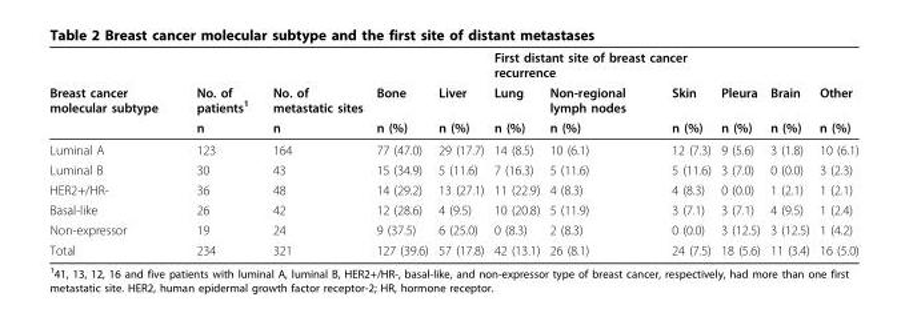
<table><thead><tr><td rowspan="3">Breast cancer molecular subtype</td><td rowspan="3">No. of patients<sup>1</sup> n</td><td rowspan="3">No. of metastatic sites n</td><td rowspan="3">Bone n (%)</td><td rowspan="3">Liver n (%)</td><td colspan="3">First distant site of breast cancer recurrence</td><td rowspan="3">Pleura n (%)</td><td rowspan="3">Brain n (%)</td><td rowspan="3">Other n (%)</td></tr><tr><td rowspan="2">Lung n (%)</td><td rowspan="2">Non-regional lymph nodes n (%)</td><td rowspan="2">Skin n (%)</td></tr><tr></tr></thead><tbody><tr><td>Luminal A</td><td>123</td><td>164</td><td>77 (47.0)</td><td>29 (17.7)</td><td>14 (8.5)</td><td>10 (6.1)</td><td>12 (7.3)</td><td>9 (5.6)</td><td>3 (1.8)</td><td>10 (6.1)</td></tr><tr><td>Luminal B</td><td>30</td><td>43</td><td>15 (34.9)</td><td>5 (11.6)</td><td>7 (16.3)</td><td>5 (11.6)</td><td>5 (11.6)</td><td>3 (7.0)</td><td>0 (0.0)</td><td>3 (2.3)</td></tr><tr><td>HER2+/HR-</td><td>36</td><td>48</td><td>14 (29.2)</td><td>13 (27.1)</td><td>11 (22.9)</td><td>4 (8.3)</td><td>4 (8.3)</td><td>0 (0.0)</td><td>1 (2.1)</td><td>1 (2.1)</td></tr><tr><td>Basal-like</td><td>26</td><td>42</td><td>12 (28.6)</td><td>4 (9.5)</td><td>10 (20.8)</td><td>5 (11.9)</td><td>3 (7.1)</td><td>3 (7.1)</td><td>4 (9.5)</td><td>1 (2.4)</td></tr><tr><td>Non-expressor</td><td>19</td><td>24</td><td>9 (37.5)</td><td>6 (25.0)</td><td>0 (8.3)</td><td>2 (8.3)</td><td>0 (0.0)</td><td>3 (12.5)</td><td>3 (12.5)</td><td>1 (4.2)</td></tr><tr><td>Total</td><td>234</td><td>321</td><td>127 (39.6)</td><td>57 (17.8)</td><td>42 (13.1)</td><td>26 (8.1)</td><td>24 (7.5)</td><td>18 (5.6)</td><td>11 (3.4)</td><td>16 (5.0)</td></tr></tbody></table>